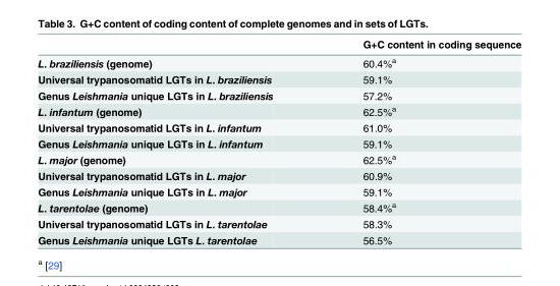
<table><thead><tr><td></td><td>G+C content in coding sequence</td></tr></thead><tbody><tr><td>L. braziliensis (genome)</td><td>60.4%<sup>a</sup></td></tr><tr><td>Universal trypanosomatid LGTs in L. braziliensis</td><td>59.1%</td></tr><tr><td>Genus Leishmania unique LGTs in L. braziliensis</td><td>57.2%</td></tr><tr><td>L. infantum (genome)</td><td>62.5%<sup>a</sup></td></tr><tr><td>Universal trypanosomatid LGTs in L. infantum</td><td>61.0%</td></tr><tr><td>Genus Leishmania unique LGTs in L. infantum</td><td>59.1%</td></tr><tr><td>L. major (genome)</td><td>62.5%<sup>a</sup></td></tr><tr><td>Universal trypanosomatid LGTs in L. major</td><td>60.9%</td></tr><tr><td>Genus Leishmania unique LGTs in L. major</td><td>59.1%</td></tr><tr><td>L. tarentolae (genome)</td><td>58.4%<sup>a</sup></td></tr><tr><td>Universal trypanosomatid LGTs in L. tarentolae</td><td>58.3%</td></tr><tr><td>Genus Leishmania unique LGTs L. tarentolae</td><td>56.5%</td></tr></tbody></table>